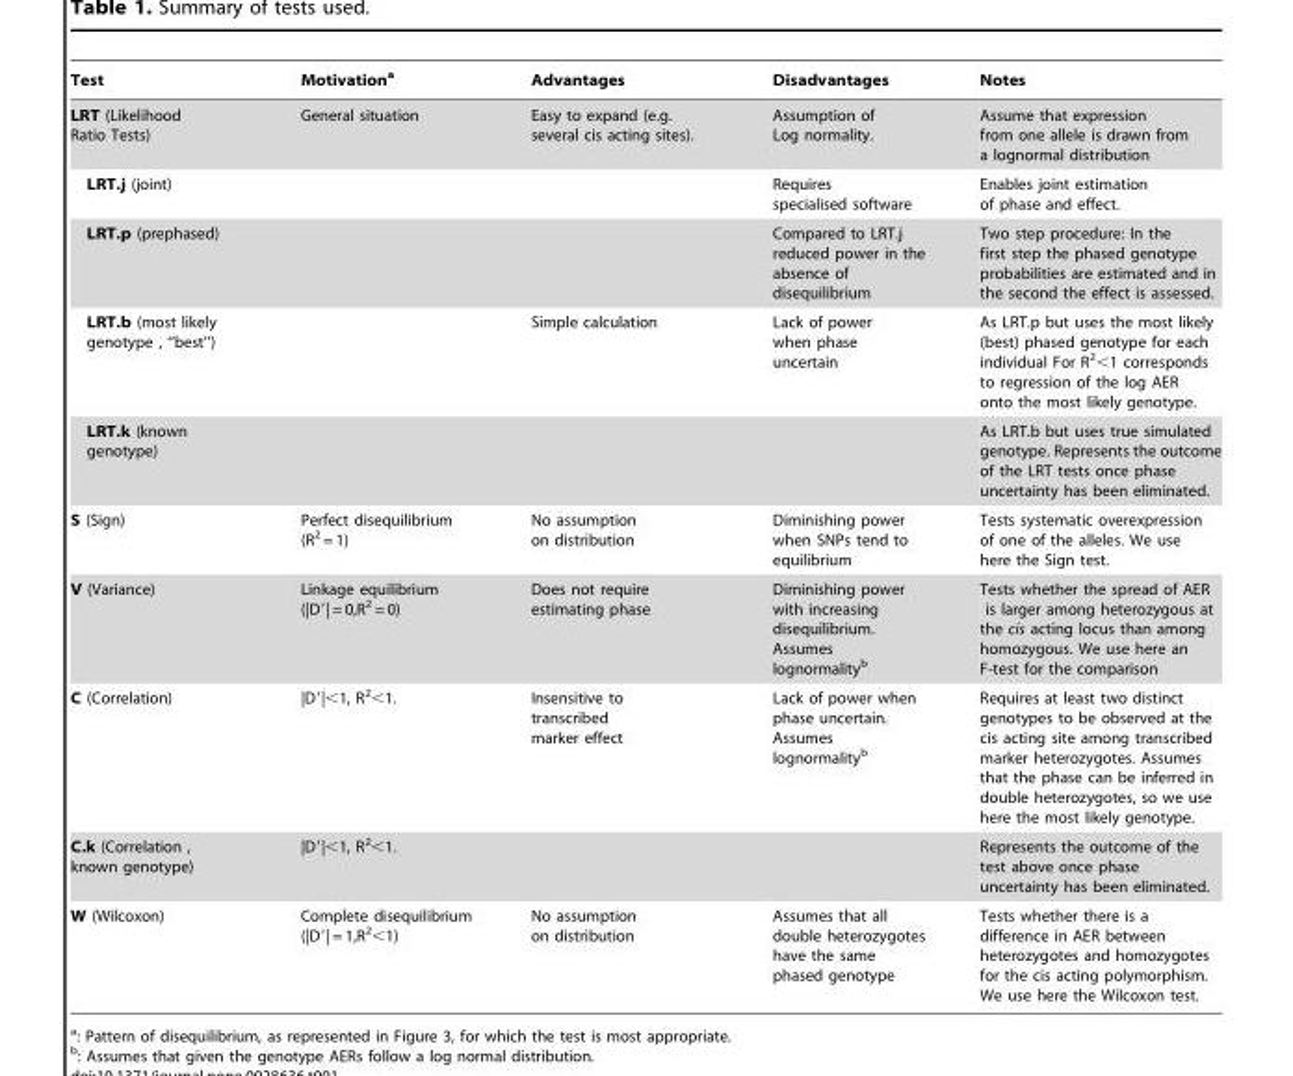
<table><thead><tr><td>Test</td><td>Motivation<sup>a</sup></td><td>Advantages</td><td>Disadvantages</td><td>Notes</td></tr></thead><tbody><tr><td>LRT (Likelihood Ratio Tests)</td><td>General situation</td><td>Easy to expand (e.g. several cis acting sites).</td><td>Assumption of Log normality.</td><td>Assume that expression from one allele is drawn from a lognormal distribution</td></tr><tr><td>LRT.j (joint)</td><td></td><td></td><td>Requires specialised software</td><td>Enables joint estimation of phase and effect.</td></tr><tr><td>LRT.p (prephased)</td><td></td><td></td><td>Compared to LRT.j reduced power in the absence of disequilibrium</td><td>Two step procedure: In the first step the phased genotype probabilities are estimated and in the second the effect is assessed.</td></tr><tr><td>LRT.b (most likely genotype , ‘‘best’’)</td><td></td><td>Simple calculation</td><td>Lack of power when phase uncertain</td><td>As LRT.p but uses the most likely (best) phased genotype for each individual For R<sup>2</sup>&lt;1 corresponds to regression of the log AER onto the most likely genotype.</td></tr><tr><td>LRT.k (known genotype)</td><td></td><td></td><td></td><td>As LRT.b but uses true simulated genotype. Represents the outcome of the LRT tests once phase uncertainty has been eliminated.</td></tr><tr><td>S (Sign)</td><td>Perfect disequilibrium (R<sup>2</sup> = 1)</td><td>No assumption on distribution</td><td>Diminishing power when SNPs tend to equilibrium</td><td>Tests systematic overexpression of one of the alleles. We use here the Sign test.</td></tr><tr><td>V (Variance)</td><td>Linkage equilibrium (|D′| = 0,R<sup>2</sup> = 0)</td><td>Does not require estimating phase</td><td>Diminishing power with increasing disequilibrium. Assumes lognormality<sup>b</sup></td><td>Tests whether the spread of AER is larger among heterozygous at the cis acting locus than among homozygous. We use here an F-test for the comparison</td></tr><tr><td>C (Correlation)</td><td>|D′|&lt;1, R<sup>2</sup>&lt;1.</td><td>Insensitive to transcribed marker effect</td><td>Lack of power when phase uncertain. Assumes lognormality<sup>b</sup></td><td>Requires at least two distinct genotypes to be observed at the cis acting site among transcribed marker heterozygotes. Assumes that the phase can be inferred in double heterozygotes, so we use here the most likely genotype.</td></tr><tr><td>C.k (Correlation , known genotype)</td><td>|D′|&lt;1, R<sup>2</sup>&lt;1.</td><td></td><td></td><td>Represents the outcome of the test above once phase uncertainty has been eliminated.</td></tr><tr><td>W (Wilcoxon)</td><td>Complete disequilibrium (|D′| = 1,R<sup>2</sup>&lt;1)</td><td>No assumption on distribution</td><td>Assumes that all double heterozygotes have the same phased genotype</td><td>Tests whether there is a difference in AER between heterozygotes and homozygotes for the cis acting polymorphism. We use here the Wilcoxon test.</td></tr></tbody></table>